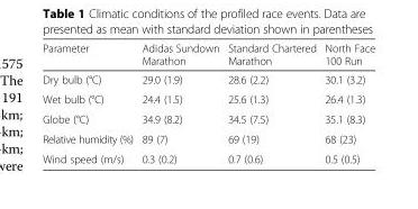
<table><thead><tr><td>Parameter</td><td>Adidas Sundown Marathon</td><td>Standard Chartered Marathon</td><td>North Face 100 Run</td></tr></thead><tbody><tr><td>Dry bulb (°C)</td><td>29.0 (1.9)</td><td>28.6 (2.2)</td><td>30.1 (3.2)</td></tr><tr><td>Wet bulb (°C)</td><td>24.4 (1.5)</td><td>25.6 (1.3)</td><td>26.4 (1.3)</td></tr><tr><td>Globe (°C)</td><td>34.9 (8.2)</td><td>34.5 (7.5)</td><td>35.1 (8.3)</td></tr><tr><td>Relative humidity (%)</td><td>89 (7)</td><td>69 (19)</td><td>68 (23)</td></tr><tr><td>Wind speed (m/s)</td><td>0.3 (0.2)</td><td>0.7 (0.6)</td><td>0.5 (0.5)</td></tr></tbody></table>